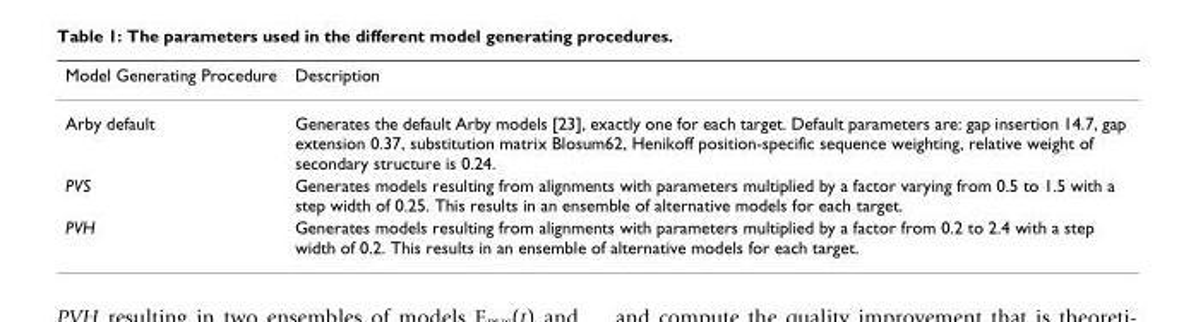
<table><thead><tr><td>Model Generating Procedure</td><td>Description</td></tr></thead><tbody><tr><td>Arby default</td><td>Generates the default Arby models [23], exactly one for each target. Default parameters are: gap insertion 14.7, gap extension 0.37, substitution matrix Blosum62, Henikoff position-specific sequence weighting, relative weight of secondary structure is 0.24.</td></tr><tr><td>PVS</td><td>Generates models resulting from alignments with parameters multiplied by a factor varying from 0.5 to 1.5 with a step width of 0.25. This results in an ensemble of alternative models for each target.</td></tr><tr><td>PVH</td><td>Generates models resulting from alignments with parameters multiplied by a factor from 0.2 to 2.4 with a step width of 0.2. This results in an ensemble of alternative models for each target.</td></tr></tbody></table>